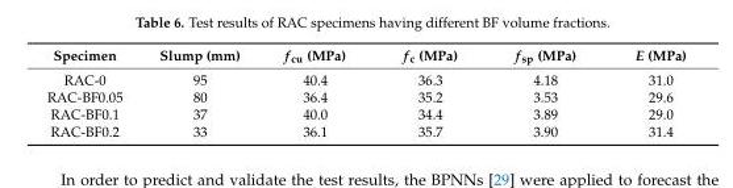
<table><thead><tr><td>Specimen</td><td>Slump (mm)</td><td>f<sub>cu</sub> (MPa)</td><td>f<sub>c</sub> (MPa)</td><td>f<sub>sp</sub> (MPa)</td><td>E (MPa)</td></tr></thead><tbody><tr><td>RAC-0</td><td>95</td><td>40.4</td><td>36.3</td><td>4.18</td><td>31.0</td></tr><tr><td>RAC-BF0.05</td><td>80</td><td>36.4</td><td>35.2</td><td>3.53</td><td>29.6</td></tr><tr><td>RAC-BF0.1</td><td>37</td><td>40.0</td><td>34.4</td><td>3.89</td><td>29.0</td></tr><tr><td>RAC-BF0.2</td><td>33</td><td>36.1</td><td>35.7</td><td>3.90</td><td>31.4</td></tr></tbody></table>